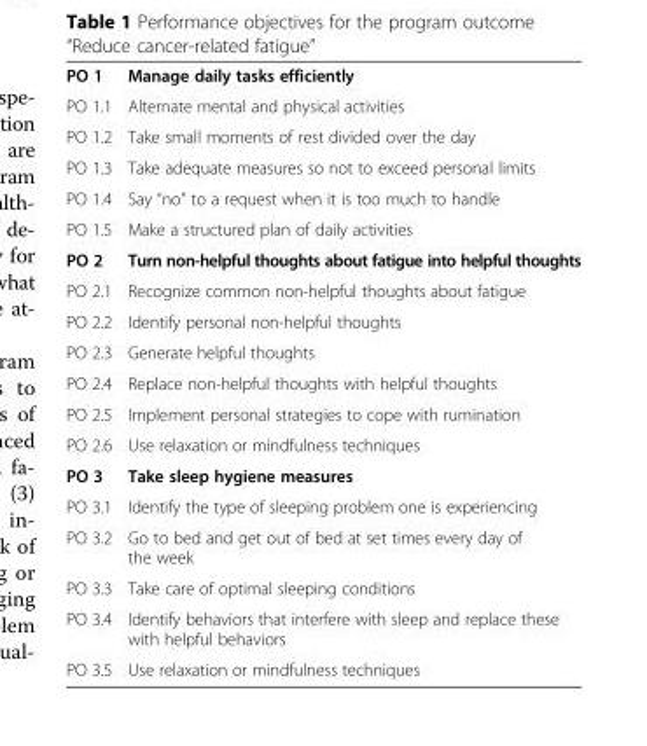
<table><tbody><tr><td>PO 1</td><td>Manage daily tasks efficiently</td></tr><tr><td>PO 1.1</td><td>Alternate mental and physical activities</td></tr><tr><td>PO 1.2</td><td>Take small moments of rest divided over the day</td></tr><tr><td>PO 1.3</td><td>Take adequate measures so not to exceed personal limits</td></tr><tr><td>PO 1.4</td><td>Say “no” to a request when it is too much to handle</td></tr><tr><td>PO 1.5</td><td>Make a structured plan of daily activities</td></tr><tr><td>PO 2</td><td>Turn non-helpful thoughts about fatigue into helpful thoughts</td></tr><tr><td>PO 2.1</td><td>Recognize common non-helpful thoughts about fatigue</td></tr><tr><td>PO 2.2</td><td>Identify personal non-helpful thoughts</td></tr><tr><td>PO 2.3</td><td>Generate helpful thoughts</td></tr><tr><td>PO 2.4</td><td>Replace non-helpful thoughts with helpful thoughts</td></tr><tr><td>PO 2.5</td><td>Implement personal strategies to cope with rumination</td></tr><tr><td>PO 2.6</td><td>Use relaxation or mindfulness techniques</td></tr><tr><td>PO 3</td><td>Take sleep hygiene measures</td></tr><tr><td>PO 3.1</td><td>Identify the type of sleeping problem one is experiencing</td></tr><tr><td>PO 3.2</td><td>Go to bed and get out of bed at set times every day of the week</td></tr><tr><td>PO 3.3</td><td>Take care of optimal sleeping conditions</td></tr><tr><td>PO 3.4</td><td>Identify behaviors that interfere with sleep and replace these with helpful behaviors</td></tr><tr><td>PO 3.5</td><td>Use relaxation or mindfulness techniques</td></tr></tbody></table>